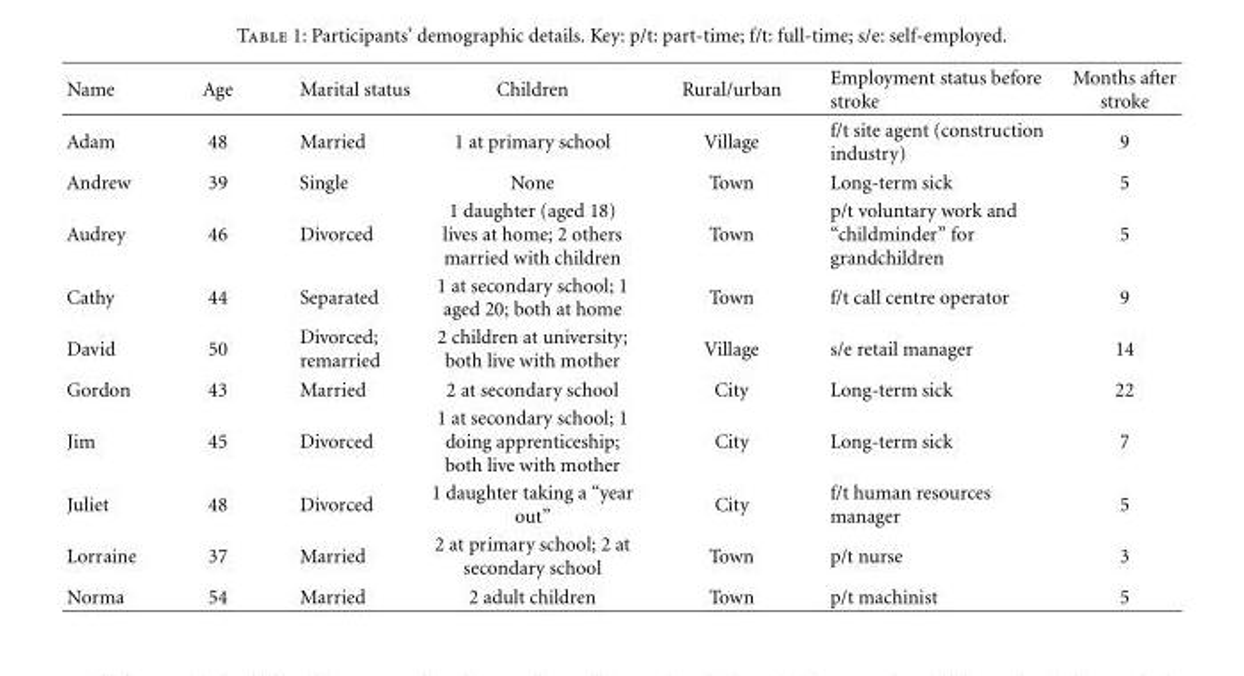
<table><thead><tr><td>Name</td><td>Age</td><td>Marital status</td><td>Children</td><td>Rural/urban</td><td>Employment status before stroke</td><td>Months after stroke</td></tr></thead><tbody><tr><td>Adam</td><td>48</td><td>Married</td><td>1 at primary school</td><td>Village</td><td>f/t site agent (construction industry)</td><td>9</td></tr><tr><td>Andrew</td><td>39</td><td>Single</td><td>None</td><td>Town</td><td>Long-term sick</td><td>5</td></tr><tr><td>Audrey</td><td>46</td><td>Divorced</td><td>1 daughter (aged 18) lives at home; 2 others married with children</td><td>Town</td><td>p/t voluntary work and “childminder” for grandchildren</td><td>5</td></tr><tr><td>Cathy</td><td>44</td><td>Separated</td><td>1 at secondary school; 1 aged 20; both at home</td><td>Town</td><td>f/t call centre operator</td><td>9</td></tr><tr><td>David</td><td>50</td><td>Divorced; remarried</td><td>2 children at university; both live with mother</td><td>Village</td><td>s/e retail manager</td><td>14</td></tr><tr><td>Gordon</td><td>43</td><td>Married</td><td>2 at secondary school</td><td>City</td><td>Long-term sick</td><td>22</td></tr><tr><td>Jim</td><td>45</td><td>Divorced</td><td>1 at secondary school; 1 doing apprenticeship; both live with mother</td><td>City</td><td>Long-term sick</td><td>7</td></tr><tr><td>Juliet</td><td>48</td><td>Divorced</td><td>1 daughter taking a “year out”</td><td>City</td><td>f/t human resources manager</td><td>5</td></tr><tr><td>Lorraine</td><td>37</td><td>Married</td><td>2 at primary school; 2 at secondary school</td><td>Town</td><td>p/t nurse</td><td>3</td></tr><tr><td>Norma</td><td>54</td><td>Married</td><td>2 adult children</td><td>Town</td><td>p/t machinist</td><td>5</td></tr></tbody></table>